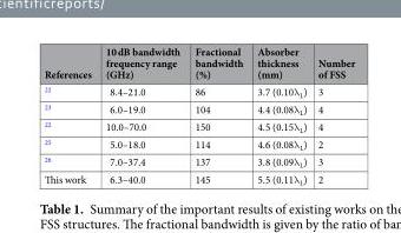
<table><thead><tr><td>References</td><td>10 dB bandwidth frequency range (GHz)</td><td>Fractional bandwidth (%)</td><td>Absorber thickness (mm)</td><td>Number of FSS</td></tr></thead><tbody><tr><td><sup>22</sup></td><td>8.4–21.0</td><td>86</td><td>3.7 (0.10λ<sub>L</sub>)</td><td>3</td></tr><tr><td><sup>23</sup></td><td>6.0–19.0</td><td>104</td><td>4.4 (0.08λ<sub>L</sub>)</td><td>4</td></tr><tr><td><sup>22</sup></td><td>10.0–70.0</td><td>150</td><td>4.5 (0.15λ<sub>L</sub>)</td><td>4</td></tr><tr><td><sup>25</sup></td><td>5.0–18.0</td><td>114</td><td>4.6 (0.08λ<sub>L</sub>)</td><td>2</td></tr><tr><td><sup>26</sup></td><td>7.0–37.4</td><td>137</td><td>3.8 (0.09λ<sub>L</sub>)</td><td>3</td></tr><tr><td>This work</td><td>6.3–40.0</td><td>145</td><td>5.5 (0.11λ<sub>L</sub>)</td><td>2</td></tr></tbody></table>